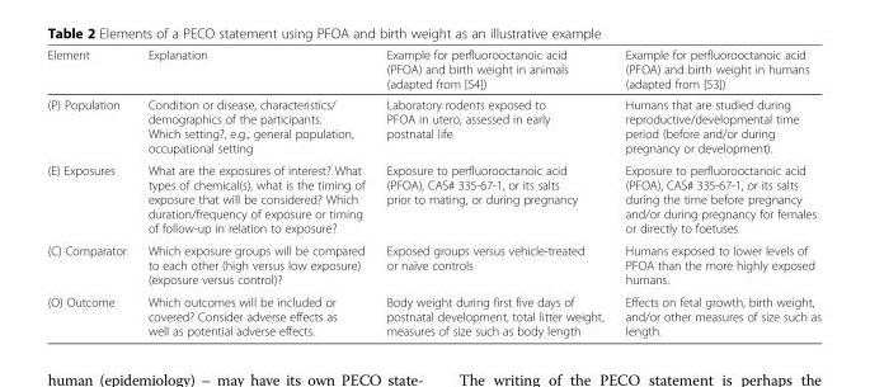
<table><thead><tr><td>Element</td><td>Explanation</td><td>Example for perfluorooctanoic acid (PFOA) and birth weight in animals (adapted from [54])</td><td>Example for perfluorooctanoic acid (PFOA) and birth weight in humans (adapted from [53])</td></tr></thead><tbody><tr><td>(P) Population</td><td>Condition or disease, characteristics/ demographics of the participants. Which setting?, e.g., general population, occupational setting</td><td>Laboratory rodents exposed to PFOA in utero, assessed in early postnatal life</td><td>Humans that are studied during reproductive/developmental time period (before and/or during pregnancy or development).</td></tr><tr><td>(E) Exposures</td><td>What are the exposures of interest? What types of chemical(s), what is the timing of exposure that will be considered? Which duration/frequency of exposure or timing of follow-up in relation to exposure?</td><td>Exposure to perfluorooctanoic acid (PFOA), CAS# 335-67-1, or its salts prior to mating, or during pregnancy</td><td>Exposure to perfluorooctanoic acid (PFOA), CAS# 335-67-1, or its salts during the time before pregnancy and/or during pregnancy for females or directly to foetuses</td></tr><tr><td>(C) Comparator</td><td>Which exposure groups will be compared to each other (high versus low exposure) (exposure versus control)?</td><td>Exposed groups versus vehicle-treated or naïve controls</td><td>Humans exposed to lower levels of PFOA than the more highly exposed humans.</td></tr><tr><td>(O) Outcome</td><td>Which outcomes will be included or covered? Consider adverse effects as well as potential adverse effects.</td><td>Body weight during first five days of postnatal development, total litter weight, measures of size such as body length</td><td>Effects on fetal growth, birth weight, and/or other measures of size such as length.</td></tr></tbody></table>